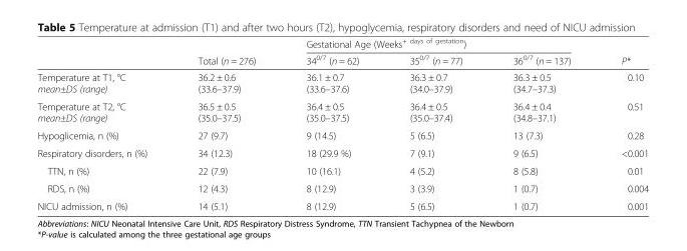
<table><thead><tr><td rowspan="2"></td><td rowspan="2">Total (n = 276)</td><td colspan="3">Gestational Age (Weeks<sup>+ days of gestation</sup>)</td><td rowspan="2">P*</td></tr><tr><td>34<sup>0/7</sup> (n = 62)</td><td>35<sup>0/7</sup> (n = 77)</td><td>36<sup>0/7</sup> (n = 137)</td></tr></thead><tbody><tr><td>Temperature at T1, °C mean±DS (range)</td><td>36.2 ± 0.6 (33.6–37.9)</td><td>36.1 ± 0.7 (33.6–37.6)</td><td>36.3 ± 0.7 (34.0–37.9)</td><td>36.3 ± 0.5 (34.7–37.3)</td><td>0.10</td></tr><tr><td>Temperature at T2, °C mean±DS (range)</td><td>36.5 ± 0.5 (35.0–37.5)</td><td>36.4 ± 0.5 (35.0–37.5)</td><td>36.4 ± 0.5 (35.0–37.4)</td><td>36.4 ± 0.4 (34.8–37.1)</td><td>0.51</td></tr><tr><td>Hypoglicemia, n (%)</td><td>27 (9.7)</td><td>9 (14.5)</td><td>5 (6.5)</td><td>13 (7.3)</td><td>0.28</td></tr><tr><td>Respiratory disorders, n (%)</td><td>34 (12.3)</td><td>18 (29.9 %)</td><td>7 (9.1)</td><td>9 (6.5)</td><td>&lt;0.001</td></tr><tr><td>TTN, n (%)</td><td>22 (7.9)</td><td>10 (16.1)</td><td>4 (5.2)</td><td>8 (5.8)</td><td>0.01</td></tr><tr><td>RDS, n (%)</td><td>12 (4.3)</td><td>8 (12.9)</td><td>3 (3.9)</td><td>1 (0.7)</td><td>0.004</td></tr><tr><td>NICU admission, n (%)</td><td>14 (5.1)</td><td>8 (12.9)</td><td>5 (6.5)</td><td>1 (0.7)</td><td>0.001</td></tr></tbody></table>